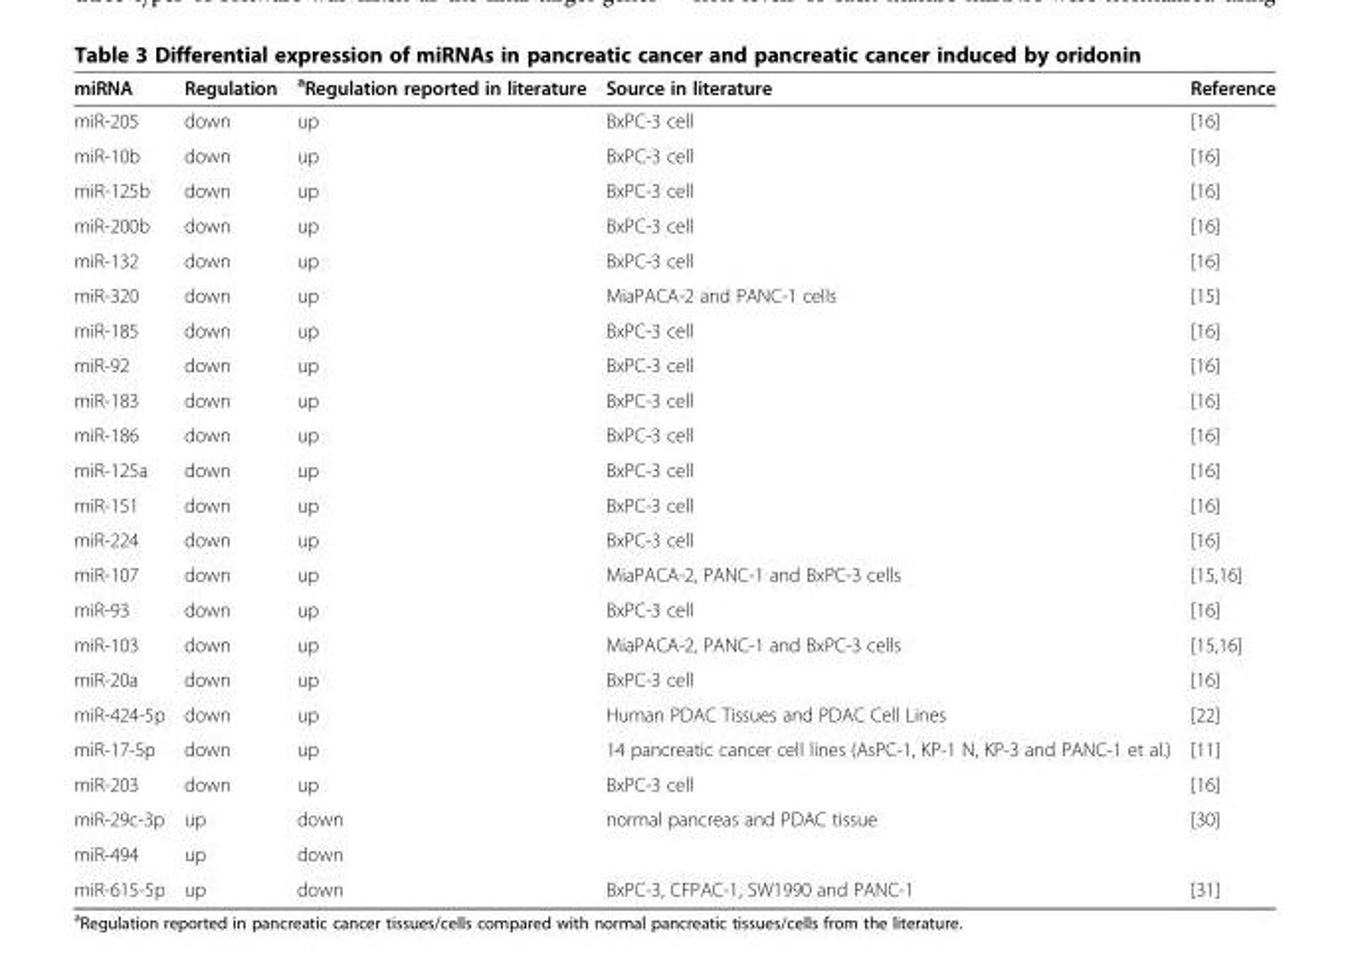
<table><thead><tr><td>miRNA</td><td>Regulation</td><td><sup>a</sup>Regulation reported in literature</td><td>Source in literature</td><td>Reference</td></tr></thead><tbody><tr><td>miR-205</td><td>down</td><td>up</td><td>BxPC-3 cell</td><td>[16]</td></tr><tr><td>miR-10b</td><td>down</td><td>up</td><td>BxPC-3 cell</td><td>[16]</td></tr><tr><td>miR-125b</td><td>down</td><td>up</td><td>BxPC-3 cell</td><td>[16]</td></tr><tr><td>miR-200b</td><td>down</td><td>up</td><td>BxPC-3 cell</td><td>[16]</td></tr><tr><td>miR-132</td><td>down</td><td>up</td><td>BxPC-3 cell</td><td>[16]</td></tr><tr><td>miR-320</td><td>down</td><td>up</td><td>MiaPACA-2 and PANC-1 cells</td><td>[15]</td></tr><tr><td>miR-185</td><td>down</td><td>up</td><td>BxPC-3 cell</td><td>[16]</td></tr><tr><td>miR-92</td><td>down</td><td>up</td><td>BxPC-3 cell</td><td>[16]</td></tr><tr><td>miR-183</td><td>down</td><td>up</td><td>BxPC-3 cell</td><td>[16]</td></tr><tr><td>miR-186</td><td>down</td><td>up</td><td>BxPC-3 cell</td><td>[16]</td></tr><tr><td>miR-125a</td><td>down</td><td>up</td><td>BxPC-3 cell</td><td>[16]</td></tr><tr><td>miR-151</td><td>down</td><td>up</td><td>BxPC-3 cell</td><td>[16]</td></tr><tr><td>miR-224</td><td>down</td><td>up</td><td>BxPC-3 cell</td><td>[16]</td></tr><tr><td>miR-107</td><td>down</td><td>up</td><td>MiaPACA-2, PANC-1 and BxPC-3 cells</td><td>[15,16]</td></tr><tr><td>miR-93</td><td>down</td><td>up</td><td>BxPC-3 cell</td><td>[16]</td></tr><tr><td>miR-103</td><td>down</td><td>up</td><td>MiaPACA-2, PANC-1 and BxPC-3 cells</td><td>[15,16]</td></tr><tr><td>miR-20a</td><td>down</td><td>up</td><td>BxPC-3 cell</td><td>[16]</td></tr><tr><td>miR-424-5p</td><td>down</td><td>up</td><td>Human PDAC Tissues and PDAC Cell Lines</td><td>[22]</td></tr><tr><td>miR-17-5p</td><td>down</td><td>up</td><td>14 pancreatic cancer cell lines (AsPC-1, KP-1 N, KP-3 and PANC-1 et al.)</td><td>[11]</td></tr><tr><td>miR-203</td><td>down</td><td>up</td><td>BxPC-3 cell</td><td>[16]</td></tr><tr><td>miR-29c-3p</td><td>up</td><td>down</td><td rowspan="2">normal pancreas and PDAC tissue</td><td rowspan="2">[30]</td></tr><tr><td>miR-494</td><td>up</td><td>down</td></tr><tr><td>miR-615-5p</td><td>up</td><td>down</td><td>BxPC-3, CFPAC-1, SW1990 and PANC-1</td><td>[31]</td></tr></tbody></table>